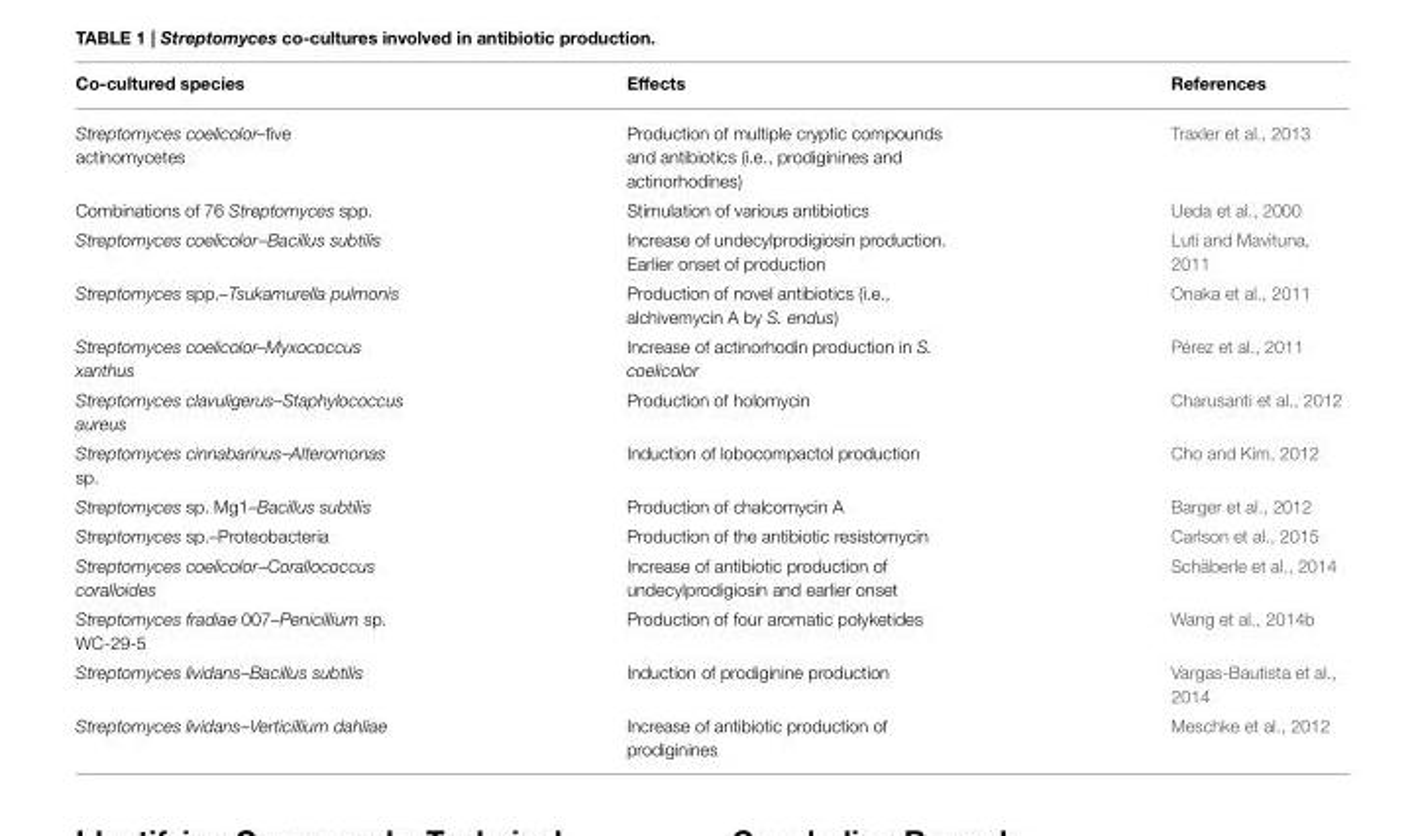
<table><thead><tr><td>Co-cultured species</td><td>Effects</td><td>References</td></tr></thead><tbody><tr><td>Streptomyces coelicolor–five actinomycetes</td><td>Production of multiple cryptic compounds and antibiotics (i.e., prodiginines and actinorhodines)</td><td>Traxler et al., 2013</td></tr><tr><td>Combinations of 76 Streptomyces spp.</td><td>Stimulation of various antibiotics</td><td>Ueda et al., 2000</td></tr><tr><td>Streptomyces coelicolor–Bacillus subtilis</td><td>Increase of undecylprodigiosin production. Earlier onset of production</td><td>Luti and Mavituna, 2011</td></tr><tr><td>Streptomyces spp.–Tsukamurella pulmonis</td><td>Production of novel antibiotics (i.e., alchivemycin A by S. endus)</td><td>Onaka et al., 2011</td></tr><tr><td>Streptomyces coelicolor–Myxococcus xanthus</td><td>Increase of actinorhodin production in S. coelicolor</td><td>Pérez et al., 2011</td></tr><tr><td>Streptomyces clavuligerus–Staphylococcus aureus</td><td>Production of holomycin</td><td>Charusanti et al., 2012</td></tr><tr><td>Streptomyces cinnabarinus–Alteromonas sp.</td><td>Induction of lobocompactol production</td><td>Cho and Kim, 2012</td></tr><tr><td>Streptomyces sp. Mg1–Bacillus subtilis</td><td>Production of chalcomycin A</td><td>Barger et al., 2012</td></tr><tr><td>Streptomyces sp.–Proteobacteria</td><td>Production of the antibiotic resistomycin</td><td>Carlson et al., 2015</td></tr><tr><td>Streptomyces coelicolor–Corallococcus coralloides</td><td>Increase of antibiotic production of undecylprodigiosin and earlier onset</td><td>Schäberle et al., 2014</td></tr><tr><td>Streptomyces fradiae 007–Penicillium sp. WC-29-5</td><td>Production of four aromatic polyketides</td><td>Wang et al., 2014b</td></tr><tr><td>Streptomyces lividans–Bacillus subtilis</td><td>Induction of prodiginine production</td><td>Vargas-Bautista et al., 2014</td></tr><tr><td>Streptomyces lividans–Verticillium dahliae</td><td>Increase of antibiotic production of prodiginines</td><td>Meschke et al., 2012</td></tr></tbody></table>